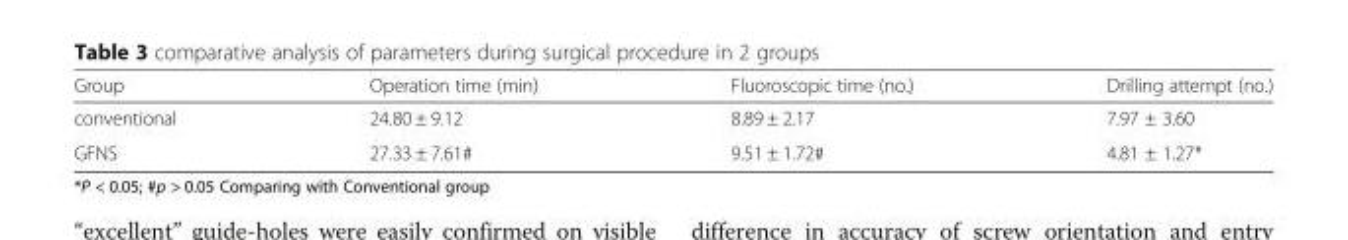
<table><thead><tr><td>Group</td><td>Operation time (min)</td><td>Fluoroscopic time (no.)</td><td>Drilling attempt (no.)</td></tr></thead><tbody><tr><td>conventional</td><td>24.80 ± 9.12</td><td>8.89 ± 2.17</td><td>7.97 ± 3.60</td></tr><tr><td>GFNS</td><td>27.33 ± 7.61#</td><td>9.51 ± 1.72#</td><td>4.81 ± 1.27*</td></tr></tbody></table>